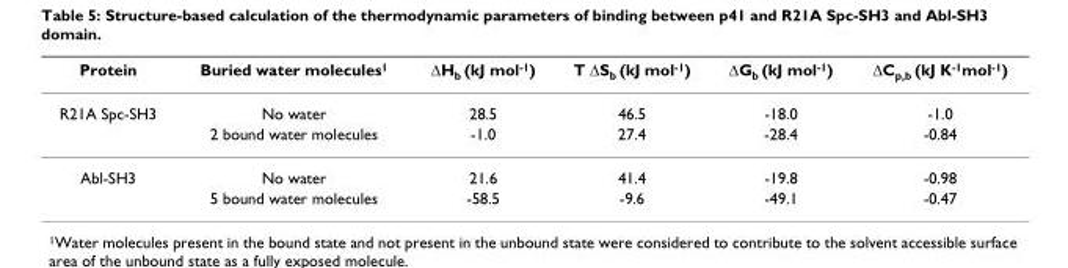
<table><thead><tr><td>Protein</td><td>Buried water molecules1</td><td>ΔHb (kJ mol-1)</td><td>T ΔSb (kJ mol-1)</td><td>ΔGb (kJ mol-1)</td><td>ΔCp,b (kJ K-1mol-1)</td></tr></thead><tbody><tr><td rowspan="2">R21A Spc-SH3</td><td>No water</td><td>28.5</td><td>46.5</td><td>-18.0</td><td>-1.0</td></tr><tr><td>2 bound water molecules</td><td>-1.0</td><td>27.4</td><td>-28.4</td><td>-0.84</td></tr><tr><td rowspan="2">Abl-SH3</td><td>No water</td><td>21.6</td><td>41.4</td><td>-19.8</td><td>-0.98</td></tr><tr><td>5 bound water molecules</td><td>-58.5</td><td>-9.6</td><td>-49.1</td><td>-0.47</td></tr></tbody></table>